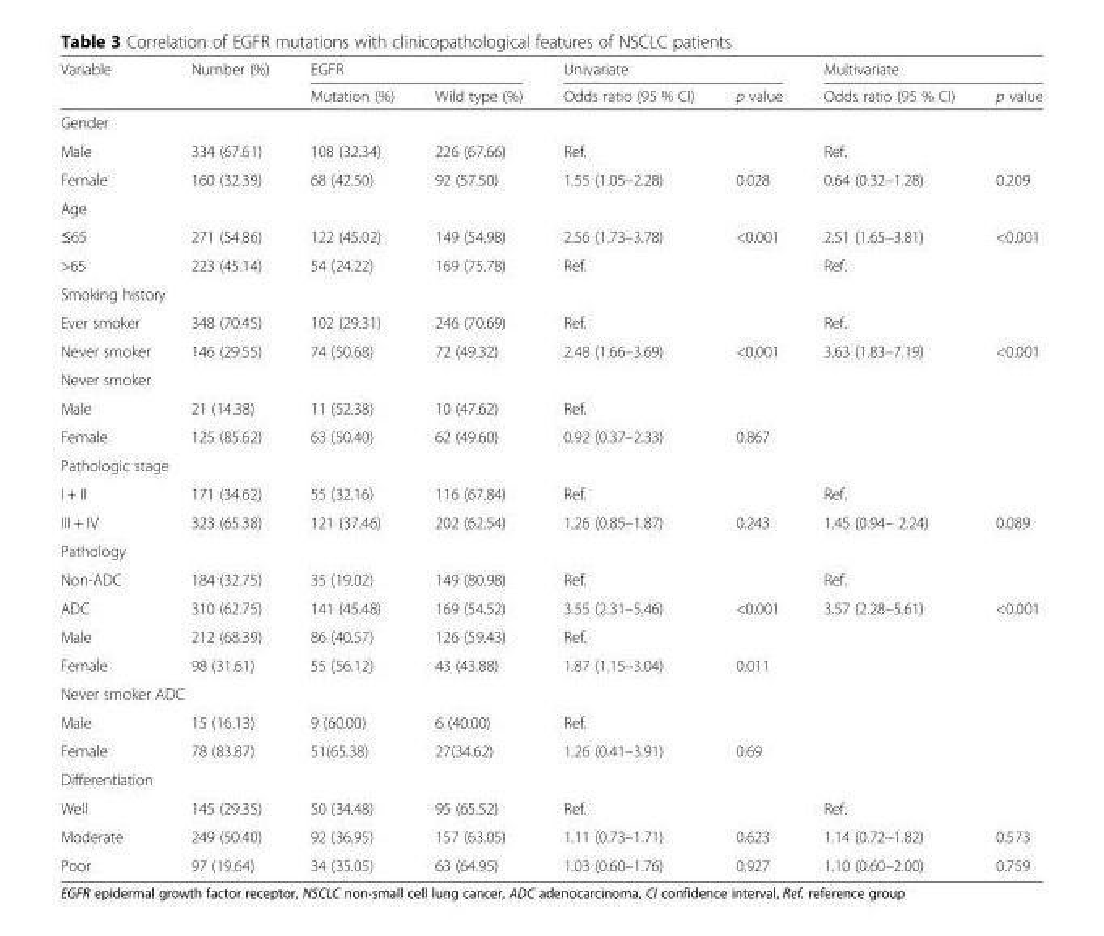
<table><thead><tr><td rowspan="2">Variable</td><td rowspan="2">Number (%)</td><td colspan="2">EGFR</td><td colspan="2">Univariate</td><td colspan="2">Multivariate</td></tr><tr><td>Mutation (%)</td><td>Wild type (%)</td><td>Odds ratio (95 % CI)</td><td>p value</td><td>Odds ratio (95 % CI)</td><td>p value</td></tr></thead><tbody><tr><td colspan="8">Gender</td></tr><tr><td>Male</td><td>334 (67.61)</td><td>108 (32.34)</td><td>226 (67.66)</td><td>Ref.</td><td></td><td>Ref.</td><td></td></tr><tr><td>Female</td><td>160 (32.39)</td><td>68 (42.50)</td><td>92 (57.50)</td><td>1.55 (1.05–2.28)</td><td>0.028</td><td>0.64 (0.32–1.28)</td><td>0.209</td></tr><tr><td colspan="8">Age</td></tr><tr><td>≤65</td><td>271 (54.86)</td><td>122 (45.02)</td><td>149 (54.98)</td><td>2.56 (1.73–3.78)</td><td>&lt;0.001</td><td>2.51 (1.65–3.81)</td><td>&lt;0.001</td></tr><tr><td>&gt;65</td><td>223 (45.14)</td><td>54 (24.22)</td><td>169 (75.78)</td><td>Ref.</td><td></td><td>Ref.</td><td></td></tr><tr><td colspan="8">Smoking history</td></tr><tr><td>Ever smoker</td><td>348 (70.45)</td><td>102 (29.31)</td><td>246 (70.69)</td><td>Ref.</td><td></td><td>Ref.</td><td></td></tr><tr><td>Never smoker</td><td>146 (29.55)</td><td>74 (50.68)</td><td>72 (49.32)</td><td>2.48 (1.66–3.69)</td><td>&lt;0.001</td><td>3.63 (1.83–7.19)</td><td>&lt;0.001</td></tr><tr><td colspan="8">Never smoker</td></tr><tr><td>Male</td><td>21 (14.38)</td><td>11 (52.38)</td><td>10 (47.62)</td><td>Ref.</td><td></td><td></td><td></td></tr><tr><td>Female</td><td>125 (85.62)</td><td>63 (50.40)</td><td>62 (49.60)</td><td>0.92 (0.37–2.33)</td><td>0.867</td><td></td><td></td></tr><tr><td colspan="8">Pathologic stage</td></tr><tr><td>I + II</td><td>171 (34.62)</td><td>55 (32.16)</td><td>116 (67.84)</td><td>Ref.</td><td></td><td>Ref.</td><td></td></tr><tr><td>III + IV</td><td>323 (65.38)</td><td>121 (37.46)</td><td>202 (62.54)</td><td>1.26 (0.85–1.87)</td><td>0.243</td><td>1.45 (0.94– 2.24)</td><td>0.089</td></tr><tr><td colspan="8">Pathology</td></tr><tr><td>Non-ADC</td><td>184 (32.75)</td><td>35 (19.02)</td><td>149 (80.98)</td><td>Ref.</td><td></td><td>Ref.</td><td></td></tr><tr><td>ADC</td><td>310 (62.75)</td><td>141 (45.48)</td><td>169 (54.52)</td><td>3.55 (2.31–5.46)</td><td>&lt;0.001</td><td>3.57 (2.28–5.61)</td><td>&lt;0.001</td></tr><tr><td>Male</td><td>212 (68.39)</td><td>86 (40.57)</td><td>126 (59.43)</td><td>Ref.</td><td></td><td></td><td></td></tr><tr><td>Female</td><td>98 (31.61)</td><td>55 (56.12)</td><td>43 (43.88)</td><td>1.87 (1.15–3.04)</td><td>0.011</td><td></td><td></td></tr><tr><td colspan="8">Never smoker ADC</td></tr><tr><td>Male</td><td>15 (16.13)</td><td>9 (60.00)</td><td>6 (40.00)</td><td>Ref.</td><td></td><td></td><td></td></tr><tr><td>Female</td><td>78 (83.87)</td><td>51(65.38)</td><td>27(34.62)</td><td>1.26 (0.41–3.91)</td><td>0.69</td><td></td><td></td></tr><tr><td colspan="8">Differentiation</td></tr><tr><td>Well</td><td>145 (29.35)</td><td>50 (34.48)</td><td>95 (65.52)</td><td>Ref.</td><td></td><td>Ref.</td><td></td></tr><tr><td>Moderate</td><td>249 (50.40)</td><td>92 (36.95)</td><td>157 (63.05)</td><td>1.11 (0.73–1.71)</td><td>0.623</td><td>1.14 (0.72–1.82)</td><td>0.573</td></tr><tr><td>Poor</td><td>97 (19.64)</td><td>34 (35.05)</td><td>63 (64.95)</td><td>1.03 (0.60–1.76)</td><td>0.927</td><td>1.10 (0.60–2.00)</td><td>0.759</td></tr></tbody></table>